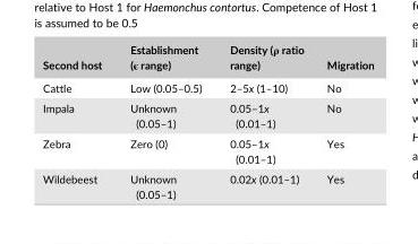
<table><thead><tr><td>Second host</td><td>Establishment (ϵ range)</td><td>Density (ρ ratio range)</td><td>Migration</td></tr></thead><tbody><tr><td>Cattle</td><td>Low (0.05–0.5)</td><td>2–5x (1–10)</td><td>No</td></tr><tr><td>Impala</td><td>Unknown (0.05–1)</td><td>0.05–1x (0.01–1)</td><td>No</td></tr><tr><td>Zebra</td><td>Zero (0)</td><td>0.05–1x (0.01–1)</td><td>Yes</td></tr><tr><td>Wildebeest</td><td>Unknown (0.05–1)</td><td>0.02x (0.01–1)</td><td>Yes</td></tr></tbody></table>